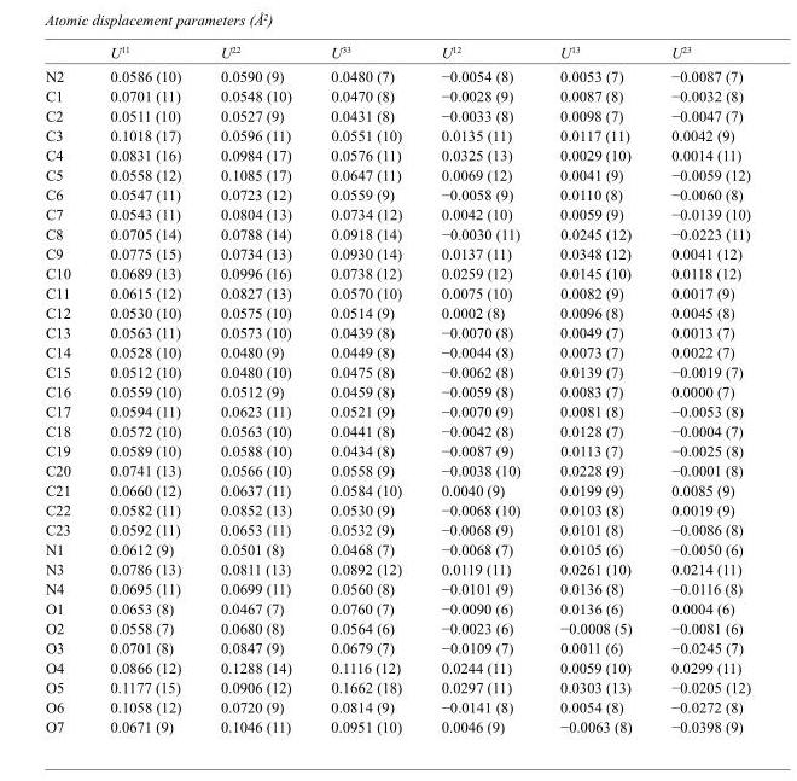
<table><thead><tr><td></td><td>U<sup>11</sup></td><td>U<sup>22</sup></td><td>U<sup>33</sup></td><td>U<sup>12</sup></td><td>U<sup>13</sup></td><td>U<sup>23</sup></td></tr></thead><tbody><tr><td>N2</td><td>0.0586 (10)</td><td>0.0590 (9)</td><td>0.0480 (7)</td><td>−0.0054 (8)</td><td>0.0053 (7)</td><td>−0.0087 (7)</td></tr><tr><td>C1</td><td>0.0701 (11)</td><td>0.0548 (10)</td><td>0.0470 (8)</td><td>−0.0028 (9)</td><td>0.0087 (8)</td><td>−0.0032 (8)</td></tr><tr><td>C2</td><td>0.0511 (10)</td><td>0.0527 (9)</td><td>0.0431 (8)</td><td>−0.0033 (8)</td><td>0.0098 (7)</td><td>−0.0047 (7)</td></tr><tr><td>C3</td><td>0.1018 (17)</td><td>0.0596 (11)</td><td>0.0551 (10)</td><td>0.0135 (11)</td><td>0.0117 (11)</td><td>0.0042 (9)</td></tr><tr><td>C4</td><td>0.0831 (16)</td><td>0.0984 (17)</td><td>0.0576 (11)</td><td>0.0325 (13)</td><td>0.0029 (10)</td><td>0.0014 (11)</td></tr><tr><td>C5</td><td>0.0558 (12)</td><td>0.1085 (17)</td><td>0.0647 (11)</td><td>0.0069 (12)</td><td>0.0041 (9)</td><td>−0.0059 (12)</td></tr><tr><td>C6</td><td>0.0547 (11)</td><td>0.0723 (12)</td><td>0.0559 (9)</td><td>−0.0058 (9)</td><td>0.0110 (8)</td><td>−0.0060 (8)</td></tr><tr><td>C7</td><td>0.0543 (11)</td><td>0.0804 (13)</td><td>0.0734 (12)</td><td>0.0042 (10)</td><td>0.0059 (9)</td><td>−0.0139 (10)</td></tr><tr><td>C8</td><td>0.0705 (14)</td><td>0.0788 (14)</td><td>0.0918 (14)</td><td>−0.0030 (11)</td><td>0.0245 (12)</td><td>−0.0223 (11)</td></tr><tr><td>C9</td><td>0.0775 (15)</td><td>0.0734 (13)</td><td>0.0930 (14)</td><td>0.0137 (11)</td><td>0.0348 (12)</td><td>0.0041 (12)</td></tr><tr><td>C10</td><td>0.0689 (13)</td><td>0.0996 (16)</td><td>0.0738 (12)</td><td>0.0259 (12)</td><td>0.0145 (10)</td><td>0.0118 (12)</td></tr><tr><td>C11</td><td>0.0615 (12)</td><td>0.0827 (13)</td><td>0.0570 (10)</td><td>0.0075 (10)</td><td>0.0082 (9)</td><td>0.0017 (9)</td></tr><tr><td>C12</td><td>0.0530 (10)</td><td>0.0575 (10)</td><td>0.0514 (9)</td><td>0.0002 (8)</td><td>0.0096 (8)</td><td>0.0045 (8)</td></tr><tr><td>C13</td><td>0.0563 (11)</td><td>0.0573 (10)</td><td>0.0439 (8)</td><td>−0.0070 (8)</td><td>0.0049 (7)</td><td>0.0013 (7)</td></tr><tr><td>C14</td><td>0.0528 (10)</td><td>0.0480 (9)</td><td>0.0449 (8)</td><td>−0.0044 (8)</td><td>0.0073 (7)</td><td>0.0022 (7)</td></tr><tr><td>C15</td><td>0.0512 (10)</td><td>0.0480 (10)</td><td>0.0475 (8)</td><td>−0.0062 (8)</td><td>0.0139 (7)</td><td>−0.0019 (7)</td></tr><tr><td>C16</td><td>0.0559 (10)</td><td>0.0512 (9)</td><td>0.0459 (8)</td><td>−0.0059 (8)</td><td>0.0083 (7)</td><td>0.0000 (7)</td></tr><tr><td>C17</td><td>0.0594 (11)</td><td>0.0623 (11)</td><td>0.0521 (9)</td><td>−0.0070 (9)</td><td>0.0081 (8)</td><td>−0.0053 (8)</td></tr><tr><td>C18</td><td>0.0572 (10)</td><td>0.0563 (10)</td><td>0.0441 (8)</td><td>−0.0042 (8)</td><td>0.0128 (7)</td><td>−0.0004 (7)</td></tr><tr><td>C19</td><td>0.0589 (10)</td><td>0.0588 (10)</td><td>0.0434 (8)</td><td>−0.0087 (9)</td><td>0.0113 (7)</td><td>−0.0025 (8)</td></tr><tr><td>C20</td><td>0.0741 (13)</td><td>0.0566 (10)</td><td>0.0558 (9)</td><td>−0.0038 (10)</td><td>0.0228 (9)</td><td>−0.0001 (8)</td></tr><tr><td>C21</td><td>0.0660 (12)</td><td>0.0637 (11)</td><td>0.0584 (10)</td><td>0.0040 (9)</td><td>0.0199 (9)</td><td>0.0085 (9)</td></tr><tr><td>C22</td><td>0.0582 (11)</td><td>0.0852 (13)</td><td>0.0530 (9)</td><td>−0.0068 (10)</td><td>0.0103 (8)</td><td>0.0019 (9)</td></tr><tr><td>C23</td><td>0.0592 (11)</td><td>0.0653 (11)</td><td>0.0532 (9)</td><td>−0.0068 (9)</td><td>0.0101 (8)</td><td>−0.0086 (8)</td></tr><tr><td>N1</td><td>0.0612 (9)</td><td>0.0501 (8)</td><td>0.0468 (7)</td><td>−0.0068 (7)</td><td>0.0105 (6)</td><td>−0.0050 (6)</td></tr><tr><td>N3</td><td>0.0786 (13)</td><td>0.0811 (13)</td><td>0.0892 (12)</td><td>0.0119 (11)</td><td>0.0261 (10)</td><td>0.0214 (11)</td></tr><tr><td>N4</td><td>0.0695 (11)</td><td>0.0699 (11)</td><td>0.0560 (8)</td><td>−0.0101 (9)</td><td>0.0136 (8)</td><td>−0.0116 (8)</td></tr><tr><td>O1</td><td>0.0653 (8)</td><td>0.0467 (7)</td><td>0.0760 (7)</td><td>−0.0090 (6)</td><td>0.0136 (6)</td><td>0.0004 (6)</td></tr><tr><td>O2</td><td>0.0558 (7)</td><td>0.0680 (8)</td><td>0.0564 (6)</td><td>−0.0023 (6)</td><td>−0.0008 (5)</td><td>−0.0081 (6)</td></tr><tr><td>O3</td><td>0.0701 (8)</td><td>0.0847 (9)</td><td>0.0679 (7)</td><td>−0.0109 (7)</td><td>0.0011 (6)</td><td>−0.0245 (7)</td></tr><tr><td>O4</td><td>0.0866 (12)</td><td>0.1288 (14)</td><td>0.1116 (12)</td><td>0.0244 (11)</td><td>0.0059 (10)</td><td>0.0299 (11)</td></tr><tr><td>O5</td><td>0.1177 (15)</td><td>0.0906 (12)</td><td>0.1662 (18)</td><td>0.0297 (11)</td><td>0.0303 (13)</td><td>−0.0205 (12)</td></tr><tr><td>O6</td><td>0.1058 (12)</td><td>0.0720 (9)</td><td>0.0814 (9)</td><td>−0.0141 (8)</td><td>0.0054 (8)</td><td>−0.0272 (8)</td></tr><tr><td>O7</td><td>0.0671 (9)</td><td>0.1046 (11)</td><td>0.0951 (10)</td><td>0.0046 (9)</td><td>−0.0063 (8)</td><td>−0.0398 (9)</td></tr></tbody></table>